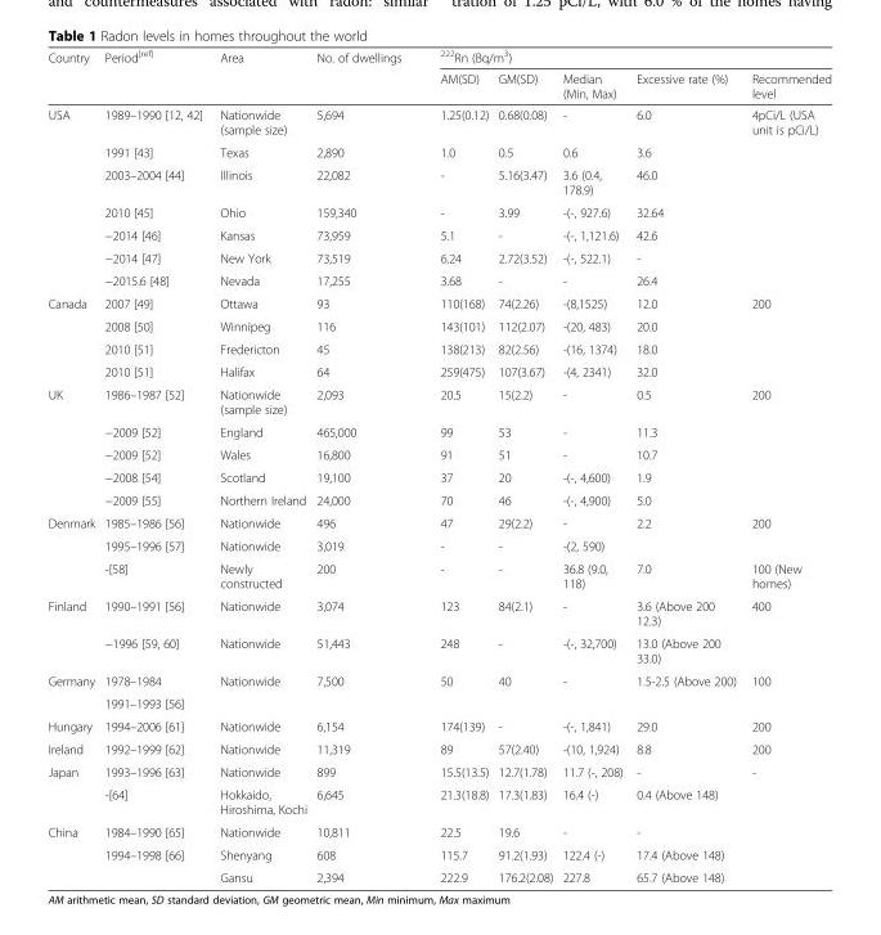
<table><thead><tr><td rowspan="2">Country</td><td rowspan="2">Period<sup>[ref]</sup></td><td rowspan="2">Area</td><td rowspan="2">No. of dwellings</td><td colspan="5"><sup>222</sup>Rn (Bq/m<sup>3</sup>)</td></tr><tr><td>AM(SD)</td><td>GM(SD)</td><td>Median (Min, Max)</td><td>Excessive rate (%)</td><td>Recommended level</td></tr></thead><tbody><tr><td rowspan="7">USA</td><td>1989–1990 [12, 42]</td><td>Nationwide (sample size)</td><td>5,694</td><td>1.25(0.12)</td><td>0.68(0.08)</td><td>-</td><td>6.0</td><td rowspan="7">4pCi/L (USA unit is pCi/L)</td></tr><tr><td>1991 [43]</td><td>Texas</td><td>2,890</td><td>1.0</td><td>0.5</td><td>0.6</td><td>3.6</td></tr><tr><td>2003–2004 [44]</td><td>Illinois</td><td>22,082</td><td>-</td><td>5.16(3.47)</td><td>3.6 (0.4, 178.9)</td><td>46.0</td></tr><tr><td>2010 [45]</td><td>Ohio</td><td>159,340</td><td>-</td><td>3.99</td><td>-(-, 927.6)</td><td>32.64</td></tr><tr><td>−2014 [46]</td><td>Kansas</td><td>73,959</td><td>5.1</td><td>-</td><td>-(-, 1,121.6)</td><td>42.6</td></tr><tr><td>−2014 [47]</td><td>New York</td><td>73,519</td><td>6.24</td><td>2.72(3.52)</td><td>-(-, 522.1)</td><td>-</td></tr><tr><td>−2015.6 [48]</td><td>Nevada</td><td>17,255</td><td>3.68</td><td>-</td><td>-</td><td>26.4</td></tr><tr><td rowspan="4">Canada</td><td>2007 [49]</td><td>Ottawa</td><td>93</td><td>110(168)</td><td>74(2.26)</td><td>-(8,1525)</td><td>12.0</td><td rowspan="4">200</td></tr><tr><td>2008 [50]</td><td>Winnipeg</td><td>116</td><td>143(101)</td><td>112(2.07)</td><td>-(20, 483)</td><td>20.0</td></tr><tr><td>2010 [51]</td><td>Fredericton</td><td>45</td><td>138(213)</td><td>82(2.56)</td><td>-(16, 1374)</td><td>18.0</td></tr><tr><td>2010 [51]</td><td>Halifax</td><td>64</td><td>259(475)</td><td>107(3.67)</td><td>-(4, 2341)</td><td>32.0</td></tr><tr><td rowspan="5">UK</td><td>1986–1987 [52]</td><td>Nationwide (sample size)</td><td>2,093</td><td>20.5</td><td>15(2.2)</td><td>-</td><td>0.5</td><td rowspan="5">200</td></tr><tr><td>−2009 [52]</td><td>England</td><td>465,000</td><td>99</td><td>53</td><td>-</td><td>11.3</td></tr><tr><td>−2009 [52]</td><td>Wales</td><td>16,800</td><td>91</td><td>51</td><td>-</td><td>10.7</td></tr><tr><td>−2008 [54]</td><td>Scotland</td><td>19,100</td><td>37</td><td>20</td><td>-(-, 4,600)</td><td>1.9</td></tr><tr><td>−2009 [55]</td><td>Northern Ireland</td><td>24,000</td><td>70</td><td>46</td><td>-(-, 4,900)</td><td>5.0</td></tr><tr><td rowspan="3">Denmark</td><td>1985–1986 [56]</td><td>Nationwide</td><td>496</td><td>47</td><td>29(2.2)</td><td>-</td><td>2.2</td><td rowspan="2">200</td></tr><tr><td>1995–1996 [57]</td><td>Nationwide</td><td>3,019</td><td>-</td><td>-</td><td>-(2, 590)</td><td></td></tr><tr><td>-[58]</td><td>Newly constructed</td><td>200</td><td>-</td><td>-</td><td>36.8 (9.0, 118)</td><td>7.0</td><td>100 (New homes)</td></tr><tr><td rowspan="2">Finland</td><td>1990–1991 [56]</td><td>Nationwide</td><td>3,074</td><td>123</td><td>84(2.1)</td><td>-</td><td>3.6 (Above 200 12.3)</td><td rowspan="2">400</td></tr><tr><td>−1996 [59, 60]</td><td>Nationwide</td><td>51,443</td><td>248</td><td>-</td><td>-(-, 32,700)</td><td>13.0 (Above 200 33.0)</td></tr><tr><td rowspan="2">Germany</td><td>1978–1984</td><td rowspan="2">Nationwide</td><td rowspan="2">7,500</td><td rowspan="2">50</td><td rowspan="2">40</td><td rowspan="2">-</td><td rowspan="2">1.5-2.5 (Above 200)</td><td rowspan="2">100</td></tr><tr><td>1991–1993 [56]</td></tr><tr><td>Hungary</td><td>1994–2006 [61]</td><td>Nationwide</td><td>6,154</td><td>174(139)</td><td>-</td><td>-(-, 1,841)</td><td>29.0</td><td>200</td></tr><tr><td>Ireland</td><td>1992–1999 [62]</td><td>Nationwide</td><td>11,319</td><td>89</td><td>57(2.40)</td><td>-(10, 1,924)</td><td>8.8</td><td>200</td></tr><tr><td rowspan="2">Japan</td><td>1993–1996 [63]</td><td>Nationwide</td><td>899</td><td>15.5(13.5)</td><td>12.7(1.78)</td><td>11.7 (-, 208)</td><td>-</td><td rowspan="2">-</td></tr><tr><td>-[64]</td><td>Hokkaido, Hiroshima, Kochi</td><td>6,645</td><td>21.3(18.8)</td><td>17.3(1.83)</td><td>16.4 (-)</td><td>0.4 (Above 148)</td></tr><tr><td rowspan="3">China</td><td>1984–1990 [65]</td><td>Nationwide</td><td>10,811</td><td>22.5</td><td>19.6</td><td>-</td><td>-</td><td></td></tr><tr><td rowspan="2">1994–1998 [66]</td><td>Shenyang</td><td>608</td><td>115.7</td><td>91.2(1.93)</td><td>122.4 (-)</td><td>17.4 (Above 148)</td><td></td></tr><tr><td>Gansu</td><td>2,394</td><td>222.9</td><td>176.2(2.08)</td><td>227.8</td><td>65.7 (Above 148)</td><td></td></tr></tbody></table>